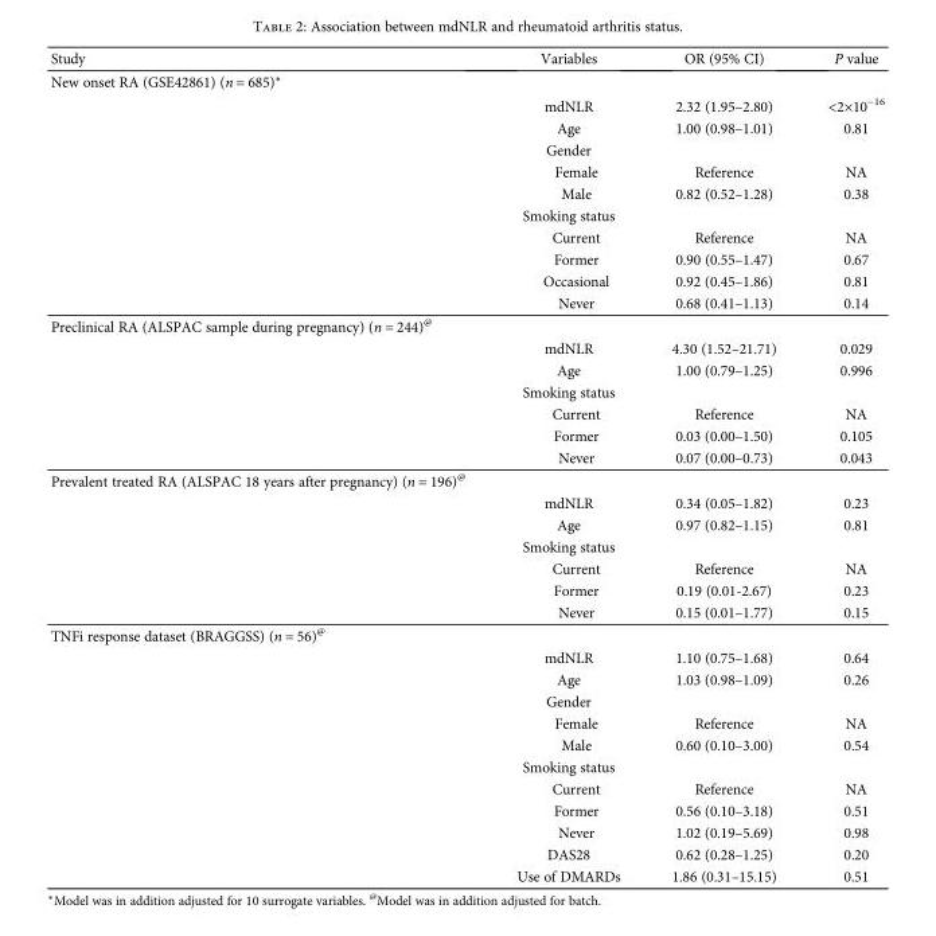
<table><thead><tr><td>Study</td><td>Variables</td><td>OR (95% CI)</td><td>P value</td></tr></thead><tbody><tr><td colspan="4">New onset RA (GSE42861) (n = 685)∗</td></tr><tr><td></td><td>mdNLR</td><td>2.32 (1.95–2.80)</td><td>&lt;2×10<sup>−16</sup></td></tr><tr><td></td><td>Age</td><td>1.00 (0.98–1.01)</td><td>0.81</td></tr><tr><td></td><td>Gender</td><td></td><td></td></tr><tr><td></td><td>Female</td><td>Reference</td><td>NA</td></tr><tr><td></td><td>Male</td><td>0.82 (0.52–1.28)</td><td>0.38</td></tr><tr><td></td><td>Smoking status</td><td></td><td></td></tr><tr><td></td><td>Current</td><td>Reference</td><td>NA</td></tr><tr><td></td><td>Former</td><td>0.90 (0.55–1.47)</td><td>0.67</td></tr><tr><td></td><td>Occasional</td><td>0.92 (0.45–1.86)</td><td>0.81</td></tr><tr><td></td><td>Never</td><td>0.68 (0.41–1.13)</td><td>0.14</td></tr><tr><td colspan="4">Preclinical RA (ALSPAC sample during pregnancy) (n = 244)<sup>@</sup></td></tr><tr><td></td><td>mdNLR</td><td>4.30 (1.52–21.71)</td><td>0.029</td></tr><tr><td></td><td>Age</td><td>1.00 (0.79–1.25)</td><td>0.996</td></tr><tr><td></td><td>Smoking status</td><td></td><td></td></tr><tr><td></td><td>Current</td><td>Reference</td><td>NA</td></tr><tr><td></td><td>Former</td><td>0.03 (0.00–1.50)</td><td>0.105</td></tr><tr><td></td><td>Never</td><td>0.07 (0.00–0.73)</td><td>0.043</td></tr><tr><td colspan="4">Prevalent treated RA (ALSPAC 18 years after pregnancy) (n = 196)<sup>@</sup></td></tr><tr><td></td><td>mdNLR</td><td>0.34 (0.05–1.82)</td><td>0.23</td></tr><tr><td></td><td>Age</td><td>0.97 (0.82–1.15)</td><td>0.81</td></tr><tr><td></td><td>Smoking status</td><td></td><td></td></tr><tr><td></td><td>Current</td><td>Reference</td><td>NA</td></tr><tr><td></td><td>Former</td><td>0.19 (0.01-2.67)</td><td>0.23</td></tr><tr><td></td><td>Never</td><td>0.15 (0.01–1.77)</td><td>0.15</td></tr><tr><td colspan="4">TNFi response dataset (BRAGGSS) (n = 56)<sup>@</sup></td></tr><tr><td></td><td>mdNLR</td><td>1.10 (0.75–1.68)</td><td>0.64</td></tr><tr><td></td><td>Age</td><td>1.03 (0.98–1.09)</td><td>0.26</td></tr><tr><td></td><td>Gender</td><td></td><td></td></tr><tr><td></td><td>Female</td><td>Reference</td><td>NA</td></tr><tr><td></td><td>Male</td><td>0.60 (0.10–3.00)</td><td>0.54</td></tr><tr><td></td><td>Smoking status</td><td></td><td></td></tr><tr><td></td><td>Current</td><td>Reference</td><td>NA</td></tr><tr><td></td><td>Former</td><td>0.56 (0.10–3.18)</td><td>0.51</td></tr><tr><td></td><td>Never</td><td>1.02 (0.19–5.69)</td><td>0.98</td></tr><tr><td></td><td>DAS28</td><td>0.62 (0.28–1.25)</td><td>0.20</td></tr><tr><td></td><td>Use of DMARDs</td><td>1.86 (0.31–15.15)</td><td>0.51</td></tr></tbody></table>